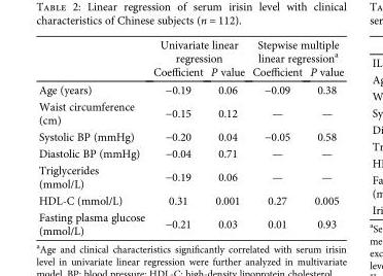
<table><thead><tr><td rowspan="2"></td><td colspan="2">Univariate linear regression</td><td colspan="2">Stepwise multiple linear regression<sup>a</sup></td></tr><tr><td>Coefficient</td><td>P value</td><td>Coefficient</td><td>P value</td></tr></thead><tbody><tr><td>Age (years)</td><td>−0.19</td><td>0.06</td><td>−0.09</td><td>0.38</td></tr><tr><td>Waist circumference (cm)</td><td>−0.15</td><td>0.12</td><td>—</td><td>—</td></tr><tr><td>Systolic BP (mmHg)</td><td>−0.20</td><td>0.04</td><td>−0.05</td><td>0.58</td></tr><tr><td>Diastolic BP (mmHg)</td><td>−0.04</td><td>0.71</td><td>—</td><td>—</td></tr><tr><td>Triglycerides (mmol/L)</td><td>−0.19</td><td>0.06</td><td>—</td><td>—</td></tr><tr><td>HDL-C (mmol/L)</td><td>0.31</td><td>0.001</td><td>0.27</td><td>0.005</td></tr><tr><td>Fasting plasma glucose (mmol/L)</td><td>−0.21</td><td>0.03</td><td>0.01</td><td>0.93</td></tr></tbody></table>